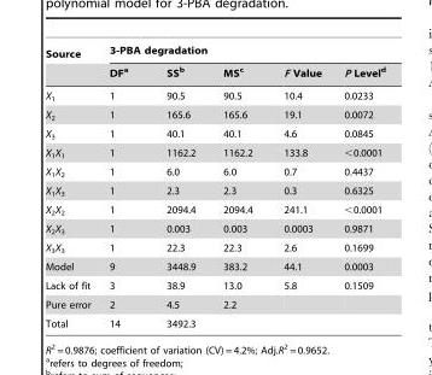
<table><thead><tr><td rowspan="2">Source</td><td colspan="5">3-PBA degradation</td></tr><tr><td>DF<sup>a</sup></td><td>SS<sup>b</sup></td><td>MS<sup>c</sup></td><td>F Value</td><td>P Level<sup>d</sup></td></tr></thead><tbody><tr><td>X<sub>1</sub></td><td>1</td><td>90.5</td><td>90.5</td><td>10.4</td><td>0.0233</td></tr><tr><td>X<sub>2</sub></td><td>1</td><td>165.6</td><td>165.6</td><td>19.1</td><td>0.0072</td></tr><tr><td>X<sub>3</sub></td><td>1</td><td>40.1</td><td>40.1</td><td>4.6</td><td>0.0845</td></tr><tr><td>X<sub>1</sub>X<sub>1</sub></td><td>1</td><td>1162.2</td><td>1162.2</td><td>133.8</td><td>&lt;0.0001</td></tr><tr><td>X<sub>1</sub>X<sub>2</sub></td><td>1</td><td>6.0</td><td>6.0</td><td>0.7</td><td>0.4437</td></tr><tr><td>X<sub>1</sub>X<sub>3</sub></td><td>1</td><td>2.3</td><td>2.3</td><td>0.3</td><td>0.6325</td></tr><tr><td>X<sub>2</sub>X<sub>2</sub></td><td>1</td><td>2094.4</td><td>2094.4</td><td>241.1</td><td>&lt;0.0001</td></tr><tr><td>X<sub>2</sub>X<sub>3</sub></td><td>1</td><td>0.003</td><td>0.003</td><td>0.0003</td><td>0.9871</td></tr><tr><td>X<sub>3</sub>X<sub>3</sub></td><td>1</td><td>22.3</td><td>22.3</td><td>2.6</td><td>0.1699</td></tr><tr><td>Model</td><td>9</td><td>3448.9</td><td>383.2</td><td>44.1</td><td>0.0003</td></tr><tr><td>Lack of fit</td><td>3</td><td>38.9</td><td>13.0</td><td>5.8</td><td>0.1509</td></tr><tr><td>Pure error</td><td>2</td><td>4.5</td><td>2.2</td><td></td><td></td></tr><tr><td>Total</td><td>14</td><td>3492.3</td><td></td><td></td><td></td></tr></tbody></table>